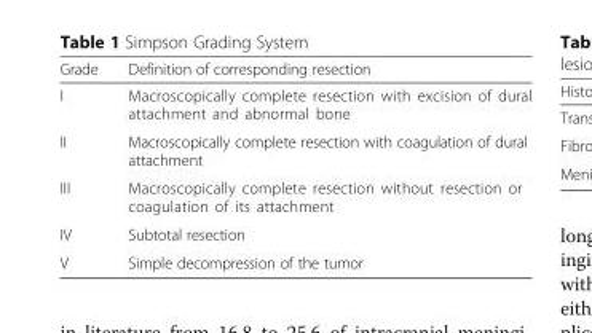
<table><thead><tr><td>Grade</td><td>Definition of corresponding resection</td></tr></thead><tbody><tr><td>I</td><td>Macroscopically complete resection with excision of dural attachment and abnormal bone</td></tr><tr><td>II</td><td>Macroscopically complete resection with coagulation of dural attachment</td></tr><tr><td>III</td><td>Macroscopically complete resection without resection or coagulation of its attachment</td></tr><tr><td>IV</td><td>Subtotal resection</td></tr><tr><td>V</td><td>Simple decompression of the tumor</td></tr></tbody></table>